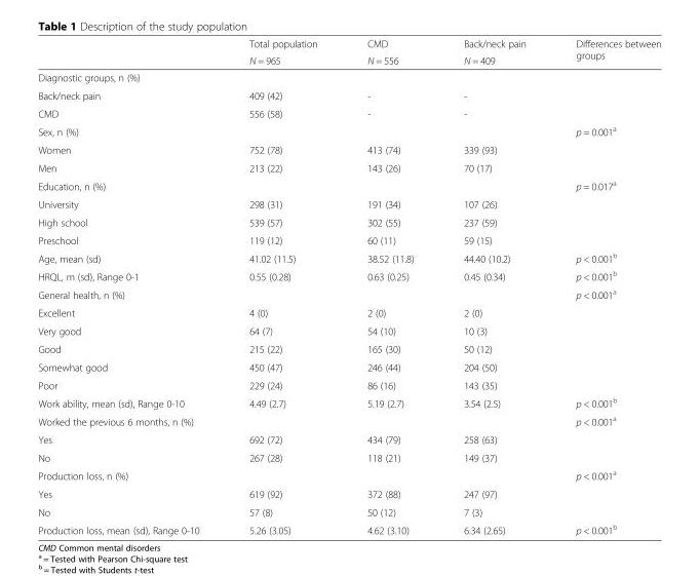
<table><thead><tr><td rowspan="2"></td><td rowspan="2">Total population N = 965</td><td rowspan="2">CMD N = 556</td><td rowspan="2">Back/neck pain N = 409</td><td rowspan="2">Differences between groups</td></tr><tr></tr></thead><tbody><tr><td colspan="4">Diagnostic groups, n (%)</td><td rowspan="3"></td></tr><tr><td>Back/neck pain</td><td>409 (42)</td><td>-</td><td>-</td></tr><tr><td>CMD</td><td>556 (58)</td><td>-</td><td>-</td></tr><tr><td colspan="4">Sex, n (%)</td><td rowspan="3">p = 0.001<sup>a</sup></td></tr><tr><td>Women</td><td>752 (78)</td><td>413 (74)</td><td>339 (93)</td></tr><tr><td>Men</td><td>213 (22)</td><td>143 (26)</td><td>70 (17)</td></tr><tr><td colspan="4">Education, n (%)</td><td rowspan="4">p = 0.017<sup>a</sup></td></tr><tr><td>University</td><td>298 (31)</td><td>191 (34)</td><td>107 (26)</td></tr><tr><td>High school</td><td>539 (57)</td><td>302 (55)</td><td>237 (59)</td></tr><tr><td>Preschool</td><td>119 (12)</td><td>60 (11)</td><td>59 (15)</td></tr><tr><td>Age, mean (sd)</td><td>41.02 (11.5)</td><td>38.52 (11.8)</td><td>44.40 (10.2)</td><td>p &lt; 0.001<sup>b</sup></td></tr><tr><td>HRQL, m (sd), Range 0-1</td><td>0.55 (0.28)</td><td>0.63 (0.25)</td><td>0.45 (0.34)</td><td>p &lt; 0.001<sup>b</sup></td></tr><tr><td colspan="4">General health, n (%)</td><td rowspan="6">p &lt; 0.001<sup>a</sup></td></tr><tr><td>Excellent</td><td>4 (0)</td><td>2 (0)</td><td>2 (0)</td></tr><tr><td>Very good</td><td>64 (7)</td><td>54 (10)</td><td>10 (3)</td></tr><tr><td>Good</td><td>215 (22)</td><td>165 (30)</td><td>50 (12)</td></tr><tr><td>Somewhat good</td><td>450 (47)</td><td>246 (44)</td><td>204 (50)</td></tr><tr><td>Poor</td><td>229 (24)</td><td>86 (16)</td><td>143 (35)</td></tr><tr><td>Work ability, mean (sd), Range 0-10</td><td>4.49 (2.7)</td><td>5.19 (2.7)</td><td>3.54 (2.5)</td><td>p &lt; 0.001<sup>b</sup></td></tr><tr><td colspan="4">Worked the previous 6 months, n (%)</td><td rowspan="3">p &lt; 0.001<sup>a</sup></td></tr><tr><td>Yes</td><td>692 (72)</td><td>434 (79)</td><td>258 (63)</td></tr><tr><td>No</td><td>267 (28)</td><td>118 (21)</td><td>149 (37)</td></tr><tr><td colspan="4">Production loss, n (%)</td><td rowspan="3">p &lt; 0.001<sup>a</sup></td></tr><tr><td>Yes</td><td>619 (92)</td><td>372 (88)</td><td>247 (97)</td></tr><tr><td>No</td><td>57 (8)</td><td>50 (12)</td><td>7 (3)</td></tr><tr><td>Production loss, mean (sd), Range 0-10</td><td>5.26 (3.05)</td><td>4.62 (3.10)</td><td>6.34 (2.65)</td><td>p &lt; 0.001<sup>b</sup></td></tr></tbody></table>